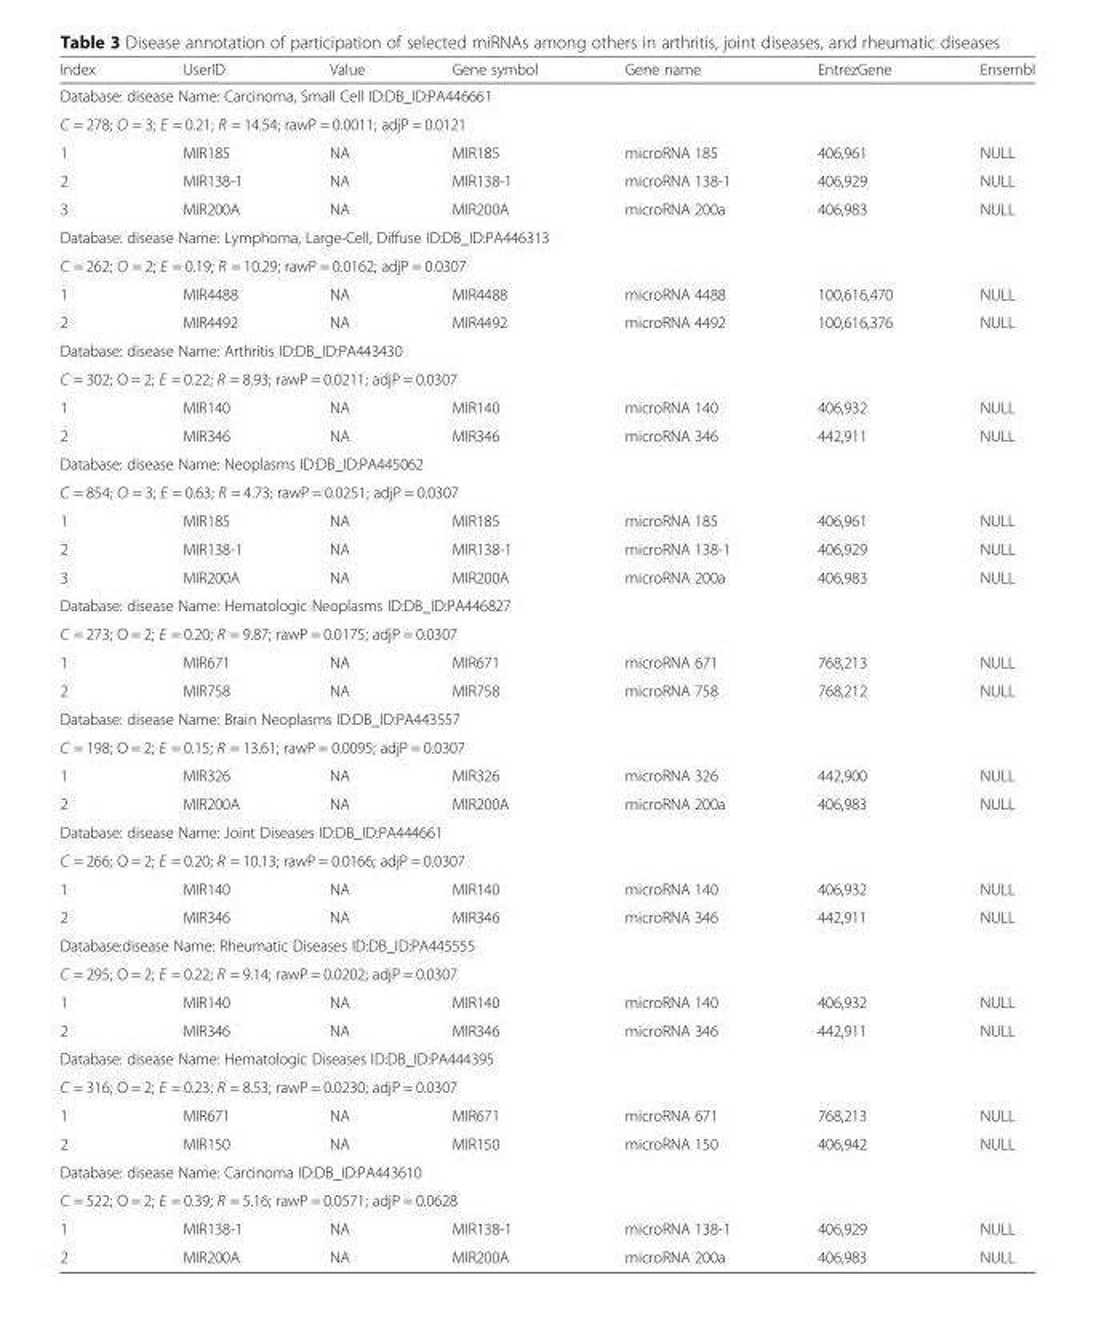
<table><thead><tr><td>Index</td><td>UserID</td><td>Value</td><td>Gene symbol</td><td>Gene name</td><td>EntrezGene</td><td>Ensembl</td></tr></thead><tbody><tr><td colspan="7">Database: disease Name: Carcinoma, Small Cell ID:DB_ID:PA446661</td></tr><tr><td colspan="7">C = 278; O = 3; E = 0.21; R = 14.54; rawP = 0.0011; adjP = 0.0121</td></tr><tr><td>1</td><td>MIR185</td><td>NA</td><td>MIR185</td><td>microRNA 185</td><td>406,961</td><td>NULL</td></tr><tr><td>2</td><td>MIR138-1</td><td>NA</td><td>MIR138-1</td><td>microRNA 138-1</td><td>406,929</td><td>NULL</td></tr><tr><td>3</td><td>MIR200A</td><td>NA</td><td>MIR200A</td><td>microRNA 200a</td><td>406,983</td><td>NULL</td></tr><tr><td colspan="7">Database: disease Name: Lymphoma, Large-Cell, Diffuse ID:DB_ID:PA446313</td></tr><tr><td colspan="7">C = 262; O = 2; E = 0.19; R = 10.29; rawP = 0.0162; adjP = 0.0307</td></tr><tr><td>1</td><td>MIR4488</td><td>NA</td><td>MIR4488</td><td>microRNA 4488</td><td>100,616,470</td><td>NULL</td></tr><tr><td>2</td><td>MIR4492</td><td>NA</td><td>MIR4492</td><td>microRNA 4492</td><td>100,616,376</td><td>NULL</td></tr><tr><td colspan="7">Database: disease Name: Arthritis ID:DB_ID:PA443430</td></tr><tr><td colspan="7">C = 302; O = 2; E = 0.22; R = 8.93; rawP = 0.0211; adjP = 0.0307</td></tr><tr><td>1</td><td>MIR140</td><td>NA</td><td>MIR140</td><td>microRNA 140</td><td>406,932</td><td>NULL</td></tr><tr><td>2</td><td>MIR346</td><td>NA</td><td>MIR346</td><td>microRNA 346</td><td>442,911</td><td>NULL</td></tr><tr><td colspan="7">Database: disease Name: Neoplasms ID:DB_ID:PA445062</td></tr><tr><td colspan="7">C = 854; O = 3; E = 0.63; R = 4.73; rawP = 0.0251; adjP = 0.0307</td></tr><tr><td>1</td><td>MIR185</td><td>NA</td><td>MIR185</td><td>microRNA 185</td><td>406,961</td><td>NULL</td></tr><tr><td>2</td><td>MIR138-1</td><td>NA</td><td>MIR138-1</td><td>microRNA 138-1</td><td>406,929</td><td>NULL</td></tr><tr><td>3</td><td>MIR200A</td><td>NA</td><td>MIR200A</td><td>microRNA 200a</td><td>406,983</td><td>NULL</td></tr><tr><td colspan="7">Database: disease Name: Hematologic Neoplasms ID:DB_ID:PA446827</td></tr><tr><td colspan="7">C = 273; O = 2; E = 0.20; R = 9.87; rawP = 0.0175; adjP = 0.0307</td></tr><tr><td>1</td><td>MIR671</td><td>NA</td><td>MIR671</td><td>microRNA 671</td><td>768,213</td><td>NULL</td></tr><tr><td>2</td><td>MIR758</td><td>NA</td><td>MIR758</td><td>microRNA 758</td><td>768,212</td><td>NULL</td></tr><tr><td colspan="7">Database: disease Name: Brain Neoplasms ID:DB_ID:PA443557</td></tr><tr><td colspan="7">C = 198; O = 2; E = 0.15; R = 13.61; rawP = 0.0095; adjP = 0.0307</td></tr><tr><td>1</td><td>MIR326</td><td>NA</td><td>MIR326</td><td>microRNA 326</td><td>442,900</td><td>NULL</td></tr><tr><td>2</td><td>MIR200A</td><td>NA</td><td>MIR200A</td><td>microRNA 200a</td><td>406,983</td><td>NULL</td></tr><tr><td colspan="7">Database: disease Name: Joint Diseases ID:DB_ID:PA444661</td></tr><tr><td colspan="7">C = 266; O = 2; E = 0.20; R = 10.13; rawP = 0.0166; adjP = 0.0307</td></tr><tr><td>1</td><td>MIR140</td><td>NA</td><td>MIR140</td><td>microRNA 140</td><td>406,932</td><td>NULL</td></tr><tr><td>2</td><td>MIR346</td><td>NA</td><td>MIR346</td><td>microRNA 346</td><td>442,911</td><td>NULL</td></tr><tr><td colspan="7">Database:disease Name: Rheumatic Diseases ID:DB_ID:PA445555</td></tr><tr><td colspan="7">C = 295; O = 2; E = 0.22; R = 9.14; rawP = 0.0202; adjP = 0.0307</td></tr><tr><td>1</td><td>MIR140</td><td>NA</td><td>MIR140</td><td>microRNA 140</td><td>406,932</td><td>NULL</td></tr><tr><td>2</td><td>MIR346</td><td>NA</td><td>MIR346</td><td>microRNA 346</td><td>442,911</td><td>NULL</td></tr><tr><td colspan="7">Database: disease Name: Hematologic Diseases ID:DB_ID:PA444395</td></tr><tr><td colspan="7">C = 316; O = 2; E = 0.23; R = 8.53; rawP = 0.0230; adjP = 0.0307</td></tr><tr><td>1</td><td>MIR671</td><td>NA</td><td>MIR671</td><td>microRNA 671</td><td>768,213</td><td>NULL</td></tr><tr><td>2</td><td>MIR150</td><td>NA</td><td>MIR150</td><td>microRNA 150</td><td>406,942</td><td>NULL</td></tr><tr><td colspan="7">Database: disease Name: Carcinoma ID:DB_ID:PA443610</td></tr><tr><td colspan="7">C = 522; O = 2; E = 0.39; R = 5.16; rawP = 0.0571; adjP = 0.0628</td></tr><tr><td>1</td><td>MIR138-1</td><td>NA</td><td>MIR138-1</td><td>microRNA 138-1</td><td>406,929</td><td>NULL</td></tr><tr><td>2</td><td>MIR200A</td><td>NA</td><td>MIR200A</td><td>microRNA 200a</td><td>406,983</td><td>NULL</td></tr></tbody></table>